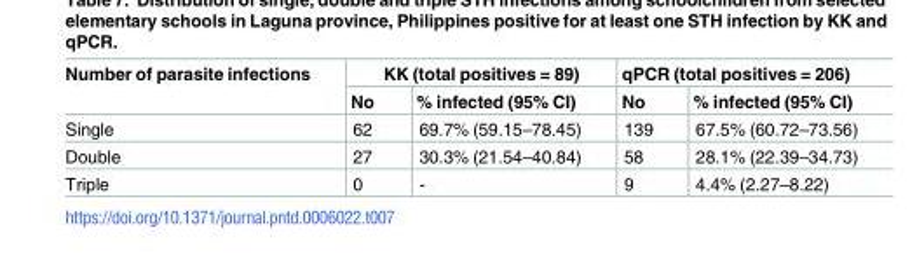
<table><thead><tr><td rowspan="2">Number of parasite infections</td><td colspan="2">KK (total positives = 89)</td><td colspan="2">qPCR (total positives = 206)</td></tr><tr><td>No</td><td>% infected (95% CI)</td><td>No</td><td>% infected (95% CI)</td></tr></thead><tbody><tr><td>Single</td><td>62</td><td>69.7% (59.15–78.45)</td><td>139</td><td>67.5% (60.72–73.56)</td></tr><tr><td>Double</td><td>27</td><td>30.3% (21.54–40.84)</td><td>58</td><td>28.1% (22.39–34.73)</td></tr><tr><td>Triple</td><td>0</td><td>-</td><td>9</td><td>4.4% (2.27–8.22)</td></tr></tbody></table>